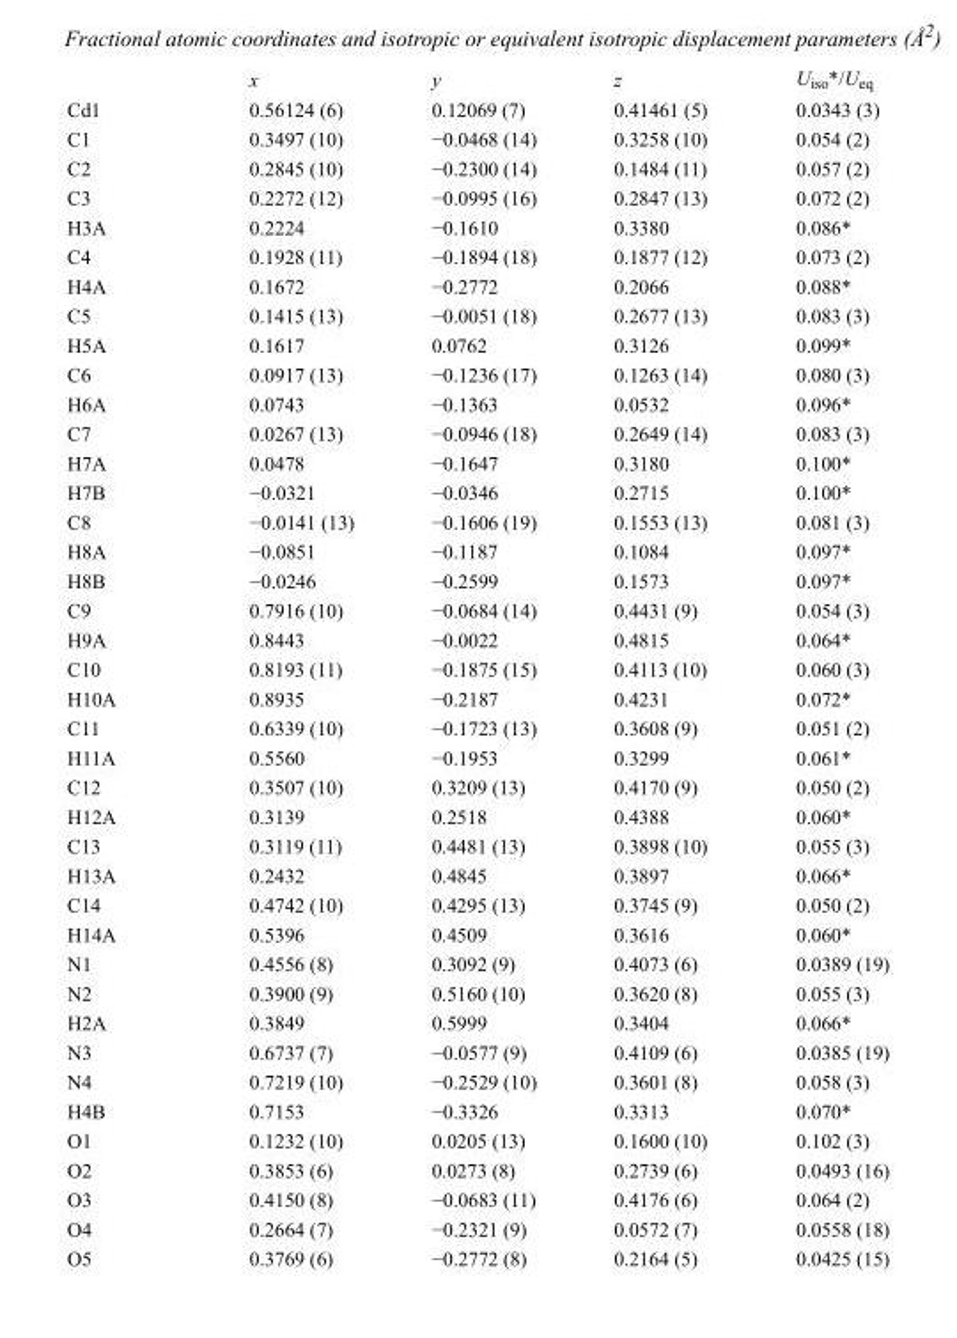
<table><thead><tr><td></td><td>x</td><td>y</td><td>z</td><td>U<sub>iso</sub>*/U<sub>eq</sub></td></tr></thead><tbody><tr><td>Cd1</td><td>0.56124 (6)</td><td>0.12069 (7)</td><td>0.41461 (5)</td><td>0.0343 (3)</td></tr><tr><td>C1</td><td>0.3497 (10)</td><td>−0.0468 (14)</td><td>0.3258 (10)</td><td>0.054 (2)</td></tr><tr><td>C2</td><td>0.2845 (10)</td><td>−0.2300 (14)</td><td>0.1484 (11)</td><td>0.057 (2)</td></tr><tr><td>C3</td><td>0.2272 (12)</td><td>−0.0995 (16)</td><td>0.2847 (13)</td><td>0.072 (2)</td></tr><tr><td>H3A</td><td>0.2224</td><td>−0.1610</td><td>0.3380</td><td>0.086*</td></tr><tr><td>C4</td><td>0.1928 (11)</td><td>−0.1894 (18)</td><td>0.1877 (12)</td><td>0.073 (2)</td></tr><tr><td>H4A</td><td>0.1672</td><td>−0.2772</td><td>0.2066</td><td>0.088*</td></tr><tr><td>C5</td><td>0.1415 (13)</td><td>−0.0051 (18)</td><td>0.2677 (13)</td><td>0.083 (3)</td></tr><tr><td>H5A</td><td>0.1617</td><td>0.0762</td><td>0.3126</td><td>0.099*</td></tr><tr><td>C6</td><td>0.0917 (13)</td><td>−0.1236 (17)</td><td>0.1263 (14)</td><td>0.080 (3)</td></tr><tr><td>H6A</td><td>0.0743</td><td>−0.1363</td><td>0.0532</td><td>0.096*</td></tr><tr><td>C7</td><td>0.0267 (13)</td><td>−0.0946 (18)</td><td>0.2649 (14)</td><td>0.083 (3)</td></tr><tr><td>H7A</td><td>0.0478</td><td>−0.1647</td><td>0.3180</td><td>0.100*</td></tr><tr><td>H7B</td><td>−0.0321</td><td>−0.0346</td><td>0.2715</td><td>0.100*</td></tr><tr><td>C8</td><td>−0.0141 (13)</td><td>−0.1606 (19)</td><td>0.1553 (13)</td><td>0.081 (3)</td></tr><tr><td>H8A</td><td>−0.0851</td><td>−0.1187</td><td>0.1084</td><td>0.097*</td></tr><tr><td>H8B</td><td>−0.0246</td><td>−0.2599</td><td>0.1573</td><td>0.097*</td></tr><tr><td>C9</td><td>0.7916 (10)</td><td>−0.0684 (14)</td><td>0.4431 (9)</td><td>0.054 (3)</td></tr><tr><td>H9A</td><td>0.8443</td><td>−0.0022</td><td>0.4815</td><td>0.064*</td></tr><tr><td>C10</td><td>0.8193 (11)</td><td>−0.1875 (15)</td><td>0.4113 (10)</td><td>0.060 (3)</td></tr><tr><td>H10A</td><td>0.8935</td><td>−0.2187</td><td>0.4231</td><td>0.072*</td></tr><tr><td>C11</td><td>0.6339 (10)</td><td>−0.1723 (13)</td><td>0.3608 (9)</td><td>0.051 (2)</td></tr><tr><td>H11A</td><td>0.5560</td><td>−0.1953</td><td>0.3299</td><td>0.061*</td></tr><tr><td>C12</td><td>0.3507 (10)</td><td>0.3209 (13)</td><td>0.4170 (9)</td><td>0.050 (2)</td></tr><tr><td>H12A</td><td>0.3139</td><td>0.2518</td><td>0.4388</td><td>0.060*</td></tr><tr><td>C13</td><td>0.3119 (11)</td><td>0.4481 (13)</td><td>0.3898 (10)</td><td>0.055 (3)</td></tr><tr><td>H13A</td><td>0.2432</td><td>0.4845</td><td>0.3897</td><td>0.066*</td></tr><tr><td>C14</td><td>0.4742 (10)</td><td>0.4295 (13)</td><td>0.3745 (9)</td><td>0.050 (2)</td></tr><tr><td>H14A</td><td>0.5396</td><td>0.4509</td><td>0.3616</td><td>0.060*</td></tr><tr><td>N1</td><td>0.4556 (8)</td><td>0.3092 (9)</td><td>0.4073 (6)</td><td>0.0389 (19)</td></tr><tr><td>N2</td><td>0.3900 (9)</td><td>0.5160 (10)</td><td>0.3620 (8)</td><td>0.055 (3)</td></tr><tr><td>H2A</td><td>0.3849</td><td>0.5999</td><td>0.3404</td><td>0.066*</td></tr><tr><td>N3</td><td>0.6737 (7)</td><td>−0.0577 (9)</td><td>0.4109 (6)</td><td>0.0385 (19)</td></tr><tr><td>N4</td><td>0.7219 (10)</td><td>−0.2529 (10)</td><td>0.3601 (8)</td><td>0.058 (3)</td></tr><tr><td>H4B</td><td>0.7153</td><td>−0.3326</td><td>0.3313</td><td>0.070*</td></tr><tr><td>O1</td><td>0.1232 (10)</td><td>0.0205 (13)</td><td>0.1600 (10)</td><td>0.102 (3)</td></tr><tr><td>O2</td><td>0.3853 (6)</td><td>0.0273 (8)</td><td>0.2739 (6)</td><td>0.0493 (16)</td></tr><tr><td>O3</td><td>0.4150 (8)</td><td>−0.0683 (11)</td><td>0.4176 (6)</td><td>0.064 (2)</td></tr><tr><td>O4</td><td>0.2664 (7)</td><td>−0.2321 (9)</td><td>0.0572 (7)</td><td>0.0558 (18)</td></tr><tr><td>O5</td><td>0.3769 (6)</td><td>−0.2772 (8)</td><td>0.2164 (5)</td><td>0.0425 (15)</td></tr></tbody></table>